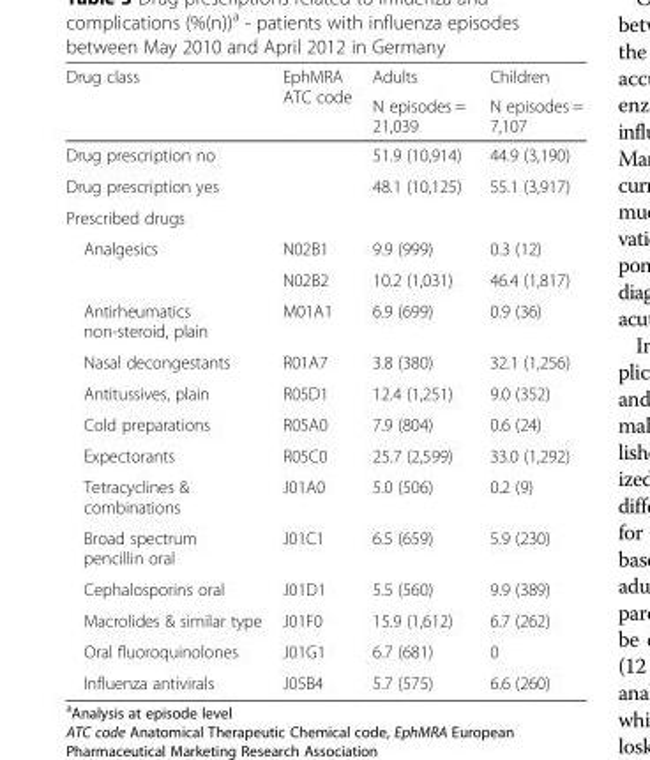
<table><thead><tr><td rowspan="2">Drug class</td><td rowspan="2">EphMRA ATC code</td><td rowspan="2">Adults N episodes = 21,039</td><td rowspan="2">Children N episodes = 7,107</td></tr><tr></tr></thead><tbody><tr><td>Drug prescription no</td><td></td><td>51.9 (10,914)</td><td>44.9 (3,190)</td></tr><tr><td>Drug prescription yes</td><td></td><td>48.1 (10,125)</td><td>55.1 (3,917)</td></tr><tr><td colspan="4">Prescribed drugs</td></tr><tr><td rowspan="2">Analgesics</td><td>N02B1</td><td>9.9 (999)</td><td>0.3 (12)</td></tr><tr><td>N02B2</td><td>10.2 (1,031)</td><td>46.4 (1,817)</td></tr><tr><td>Antirheumatics non-steroid, plain</td><td>M01A1</td><td>6.9 (699)</td><td>0.9 (36)</td></tr><tr><td>Nasal decongestants</td><td>R01A7</td><td>3.8 (380)</td><td>32.1 (1,256)</td></tr><tr><td>Antitussives, plain</td><td>R05D1</td><td>12.4 (1,251)</td><td>9.0 (352)</td></tr><tr><td>Cold preparations</td><td>R05A0</td><td>7.9 (804)</td><td>0.6 (24)</td></tr><tr><td>Expectorants</td><td>R05C0</td><td>25.7 (2,599)</td><td>33.0 (1,292)</td></tr><tr><td>Tetracyclines &amp; combinations</td><td>J01A0</td><td>5.0 (506)</td><td>0.2 (9)</td></tr><tr><td>Broad spectrum pencillin oral</td><td>J01C1</td><td>6.5 (659)</td><td>5.9 (230)</td></tr><tr><td>Cephalosporins oral</td><td>J01D1</td><td>5.5 (560)</td><td>9.9 (389)</td></tr><tr><td>Macrolides &amp; similar type</td><td>J01F0</td><td>15.9 (1,612)</td><td>6.7 (262)</td></tr><tr><td>Oral fluoroquinolones</td><td>J01G1</td><td>6.7 (681)</td><td>0</td></tr><tr><td>Influenza antivirals</td><td>J05B4</td><td>5.7 (575)</td><td>6.6 (260)</td></tr></tbody></table>